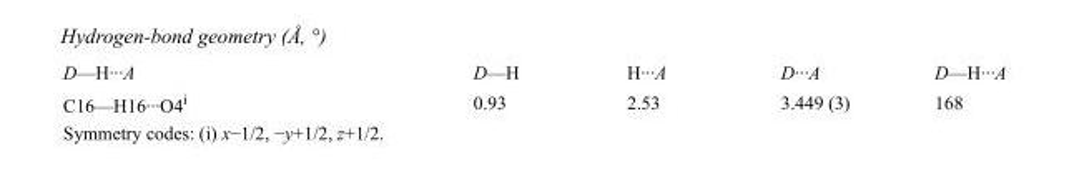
<table><tbody><tr><td>D—H···A</td><td>D—H</td><td>H···A</td><td>D···A</td><td>D—H···A</td></tr><tr><td>C16—H16···O4<sup>i</sup></td><td>0.93</td><td>2.53</td><td>3.449 (3)</td><td>168</td></tr></tbody></table>